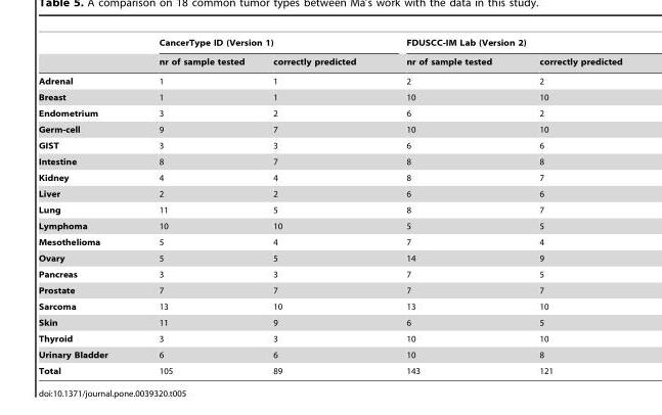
<table><thead><tr><td rowspan="2"></td><td colspan="2">CancerType ID (Version 1)</td><td colspan="2">FDUSCC-IM Lab (Version 2)</td></tr><tr><td>nr of sample tested</td><td>correctly predicted</td><td>nr of sample tested</td><td>correctly predicted</td></tr></thead><tbody><tr><td>Adrenal</td><td>1</td><td>1</td><td>2</td><td>2</td></tr><tr><td>Breast</td><td>1</td><td>1</td><td>10</td><td>10</td></tr><tr><td>Endometrium</td><td>3</td><td>2</td><td>6</td><td>2</td></tr><tr><td>Germ-cell</td><td>9</td><td>7</td><td>10</td><td>10</td></tr><tr><td>GIST</td><td>3</td><td>3</td><td>6</td><td>6</td></tr><tr><td>Intestine</td><td>8</td><td>7</td><td>8</td><td>8</td></tr><tr><td>Kidney</td><td>4</td><td>4</td><td>8</td><td>7</td></tr><tr><td>Liver</td><td>2</td><td>2</td><td>6</td><td>6</td></tr><tr><td>Lung</td><td>11</td><td>5</td><td>8</td><td>7</td></tr><tr><td>Lymphoma</td><td>10</td><td>10</td><td>5</td><td>5</td></tr><tr><td>Mesothelioma</td><td>5</td><td>4</td><td>7</td><td>4</td></tr><tr><td>Ovary</td><td>5</td><td>5</td><td>14</td><td>9</td></tr><tr><td>Pancreas</td><td>3</td><td>3</td><td>7</td><td>5</td></tr><tr><td>Prostate</td><td>7</td><td>7</td><td>7</td><td>7</td></tr><tr><td>Sarcoma</td><td>13</td><td>10</td><td>13</td><td>10</td></tr><tr><td>Skin</td><td>11</td><td>9</td><td>6</td><td>5</td></tr><tr><td>Thyroid</td><td>3</td><td>3</td><td>10</td><td>10</td></tr><tr><td>Urinary Bladder</td><td>6</td><td>6</td><td>10</td><td>8</td></tr><tr><td>Total</td><td>105</td><td>89</td><td>143</td><td>121</td></tr></tbody></table>